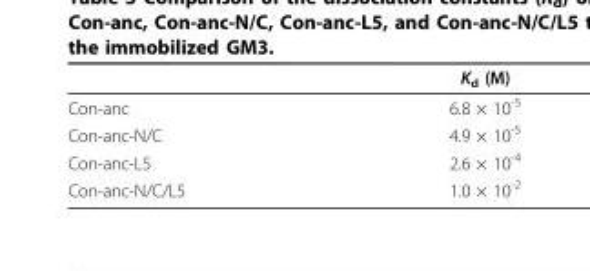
<table><thead><tr><td></td><td>K<sub>d</sub> (M)</td></tr></thead><tbody><tr><td>Con-anc</td><td>6.8 × 10<sup>-5</sup></td></tr><tr><td>Con-anc-N/C</td><td>4.9 × 10<sup>-5</sup></td></tr><tr><td>Con-anc-L5</td><td>2.6 × 10<sup>-4</sup></td></tr><tr><td>Con-anc-N/C/L5</td><td>1.0 × 10<sup>-2</sup></td></tr></tbody></table>